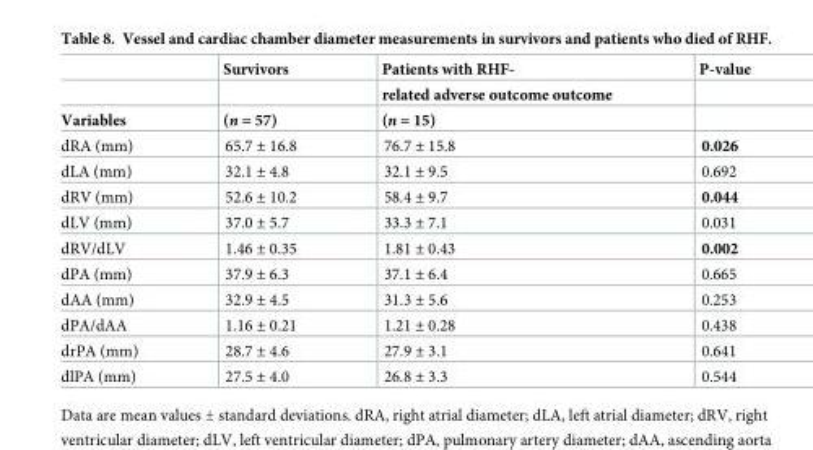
<table><thead><tr><td rowspan="3">Variables</td><td rowspan="3">Survivors (n = 57)</td><td rowspan="3">Patients with RHF- related adverse outcome outcome (n = 15)</td><td rowspan="3">P-value</td></tr><tr></tr><tr></tr></thead><tbody><tr><td>dRA (mm)</td><td>65.7 ± 16.8</td><td>76.7 ± 15.8</td><td>0.026</td></tr><tr><td>dLA (mm)</td><td>32.1 ± 4.8</td><td>32.1 ± 9.5</td><td>0.692</td></tr><tr><td>dRV (mm)</td><td>52.6 ± 10.2</td><td>58.4 ± 9.7</td><td>0.044</td></tr><tr><td>dLV (mm)</td><td>37.0 ± 5.7</td><td>33.3 ± 7.1</td><td>0.031</td></tr><tr><td>dRV/dLV</td><td>1.46 ± 0.35</td><td>1.81 ± 0.43</td><td>0.002</td></tr><tr><td>dPA (mm)</td><td>37.9 ± 6.3</td><td>37.1 ± 6.4</td><td>0.665</td></tr><tr><td>dAA (mm)</td><td>32.9 ± 4.5</td><td>31.3 ± 5.6</td><td>0.253</td></tr><tr><td>dPA/dAA</td><td>1.16 ± 0.21</td><td>1.21 ± 0.28</td><td>0.438</td></tr><tr><td>drPA (mm)</td><td>28.7 ± 4.6</td><td>27.9 ± 3.1</td><td>0.641</td></tr><tr><td>dlPA (mm)</td><td>27.5 ± 4.0</td><td>26.8 ± 3.3</td><td>0.544</td></tr></tbody></table>